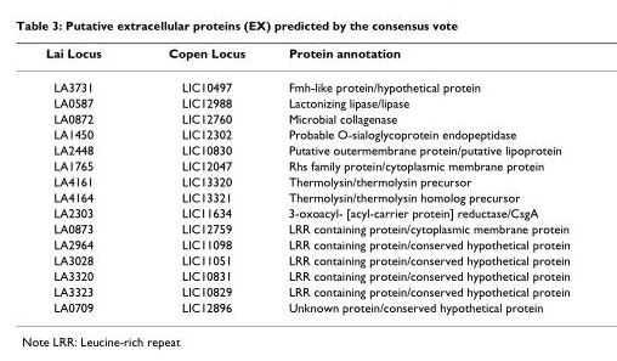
<table><thead><tr><td>Lai Locus</td><td>Copen Locus</td><td>Protein annotation</td></tr></thead><tbody><tr><td>LA3731</td><td>LIC10497</td><td>Fmh-like protein/hypothetical protein</td></tr><tr><td>LA0587</td><td>LIC12988</td><td>Lactonizing lipase/lipase</td></tr><tr><td>LA0872</td><td>LIC12760</td><td>Microbial collagenase</td></tr><tr><td>LA1450</td><td>LIC12302</td><td>Probable O-sialoglycoprotein endopeptidase</td></tr><tr><td>LA2448</td><td>LIC10830</td><td>Putative outermembrane protein/putative lipoprotein</td></tr><tr><td>LA1765</td><td>LIC12047</td><td>Rhs family protein/cytoplasmic membrane protein</td></tr><tr><td>LA4161</td><td>LIC13320</td><td>Thermolysin/thermolysin precursor</td></tr><tr><td>LA4164</td><td>LIC13321</td><td>Thermolysin/thermolysin homolog precursor</td></tr><tr><td>LA2303</td><td>LIC11634</td><td>3-oxoacyl- [acyl-carrier protein] reductase/CsgA</td></tr><tr><td>LA0873</td><td>LIC12759</td><td>LRR containing protein/cytoplasmic membrane protein</td></tr><tr><td>LA2964</td><td>LIC11098</td><td>LRR containing protein/conserved hypothetical protein</td></tr><tr><td>LA3028</td><td>LIC11051</td><td>LRR containing protein/conserved hypothetical protein</td></tr><tr><td>LA3320</td><td>LIC10831</td><td>LRR containing protein/conserved hypothetical protein</td></tr><tr><td>LA3323</td><td>LIC10829</td><td>LRR containing protein/conserved hypothetical protein</td></tr><tr><td>LA0709</td><td>LIC12896</td><td>Unknown protein/conserved hypothetical protein</td></tr></tbody></table>